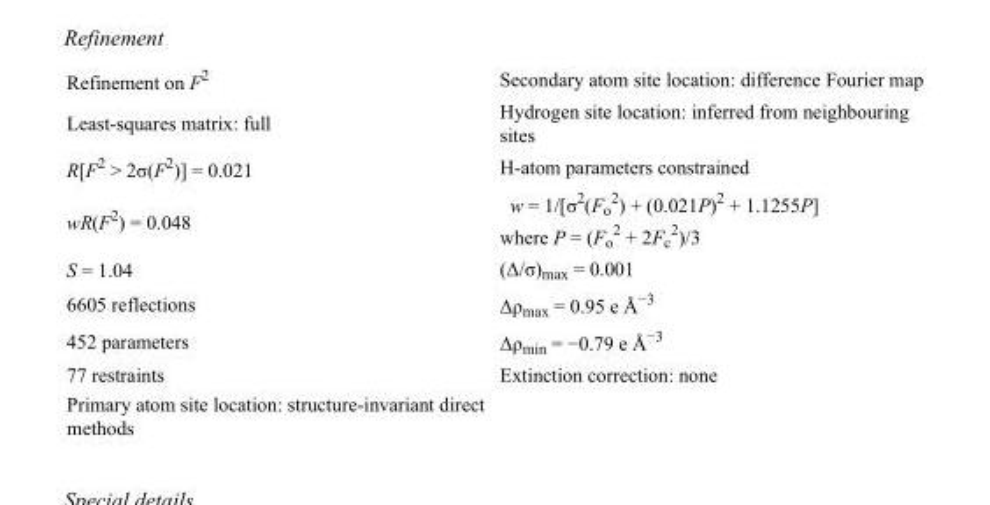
<table><tbody><tr><td>Refinement on F<sup>2</sup></td><td>Secondary atom site location: difference Fourier map</td></tr><tr><td>Least-squares matrix: full</td><td>Hydrogen site location: inferred from neighbouring sites</td></tr><tr><td>R[F<sup>2</sup> &gt; 2σ(F<sup>2</sup>)] = 0.021</td><td>H-atom parameters constrained</td></tr><tr><td>wR(F<sup>2</sup>) = 0.048</td><td>w = 1/[σ<sup>2</sup>(F<sub>o</sub> <sup>2</sup>) + (0.021P)<sup>2</sup> + 1.1255P] where P = (F<sub>o</sub> <sup>2</sup> + 2F<sub>c</sub> <sup>2</sup>)/3</td></tr><tr><td>S = 1.04</td><td>(Δ/σ)<sub>max</sub> = 0.001</td></tr><tr><td>6605 reflections</td><td>Δρ<sub>max</sub> = 0.95 e Å<sup>−3</sup></td></tr><tr><td>452 parameters</td><td>Δρ<sub>min</sub> = −0.79 e Å<sup>−3</sup></td></tr><tr><td>77 restraints</td><td>Extinction correction: none</td></tr><tr><td>Primary atom site location: structure-invariant direct methods</td><td></td></tr></tbody></table>